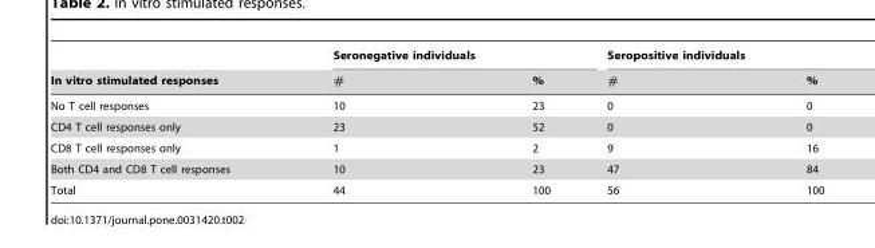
<table><thead><tr><td rowspan="2">In vitro stimulated responses</td><td colspan="2">Seronegative individuals</td><td colspan="2">Seropositive individuals</td></tr><tr><td>#</td><td>%</td><td>#</td><td>%</td></tr></thead><tbody><tr><td>No T cell responses</td><td>10</td><td>23</td><td>0</td><td>0</td></tr><tr><td>CD4 T cell responses only</td><td>23</td><td>52</td><td>0</td><td>0</td></tr><tr><td>CD8 T cell responses only</td><td>1</td><td>2</td><td>9</td><td>16</td></tr><tr><td>Both CD4 and CD8 T cell responses</td><td>10</td><td>23</td><td>47</td><td>84</td></tr><tr><td>Total</td><td>44</td><td>100</td><td>56</td><td>100</td></tr></tbody></table>